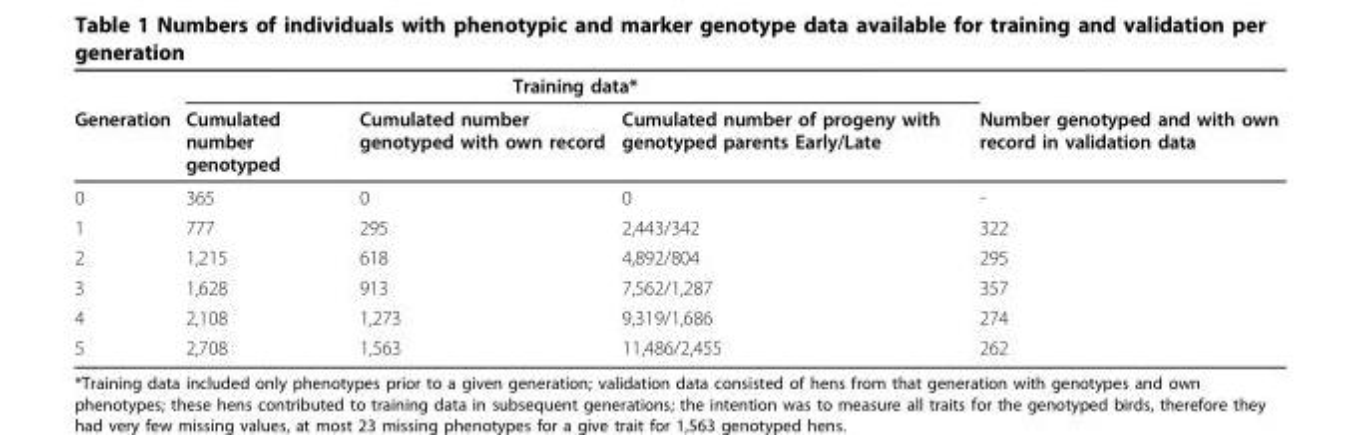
<table><thead><tr><td rowspan="2">Generation</td><td colspan="3">Training data*</td><td rowspan="2">Number genotyped and with own record in validation data</td></tr><tr><td>Cumulated number genotyped</td><td>Cumulated number genotyped with own record</td><td>Cumulated number of progeny with genotyped parents Early/Late</td></tr></thead><tbody><tr><td>0</td><td>365</td><td>0</td><td>0</td><td>-</td></tr><tr><td>1</td><td>777</td><td>295</td><td>2,443/342</td><td>322</td></tr><tr><td>2</td><td>1,215</td><td>618</td><td>4,892/804</td><td>295</td></tr><tr><td>3</td><td>1,628</td><td>913</td><td>7,562/1,287</td><td>357</td></tr><tr><td>4</td><td>2,108</td><td>1,273</td><td>9,319/1,686</td><td>274</td></tr><tr><td>5</td><td>2,708</td><td>1,563</td><td>11,486/2,455</td><td>262</td></tr></tbody></table>